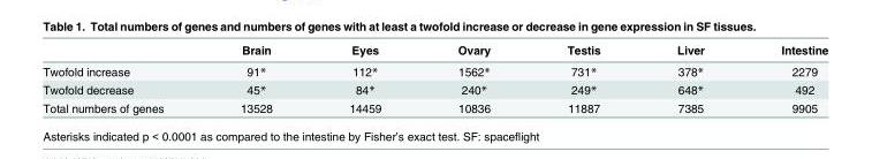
<table><thead><tr><td></td><td>Brain</td><td>Eyes</td><td>Ovary</td><td>Testis</td><td>Liver</td><td>Intestine</td></tr></thead><tbody><tr><td>Twofold increase</td><td>91*</td><td>112*</td><td>1562*</td><td>731*</td><td>378*</td><td>2279</td></tr><tr><td>Twofold decrease</td><td>45*</td><td>84*</td><td>240*</td><td>249*</td><td>648*</td><td>492</td></tr><tr><td>Total numbers of genes</td><td>13528</td><td>14459</td><td>10836</td><td>11887</td><td>7385</td><td>9905</td></tr></tbody></table>